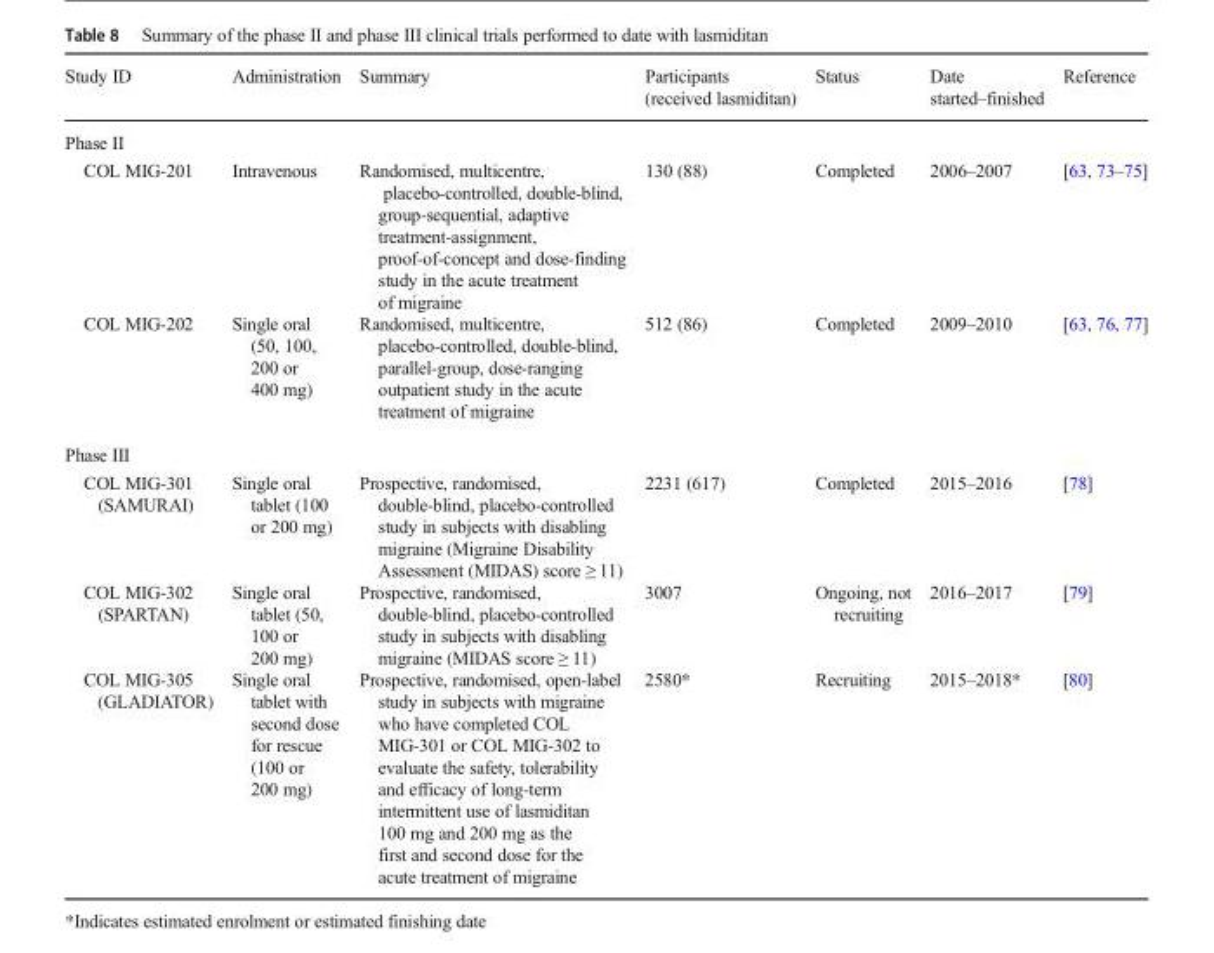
<table><thead><tr><td>Study ID</td><td>Administration</td><td>Summary</td><td>Participants (received lasmiditan)</td><td>Status</td><td>Date started–finished</td><td>Reference</td></tr></thead><tbody><tr><td colspan="7">Phase II</td></tr><tr><td>COL MIG-201</td><td>Intravenous</td><td>Randomised, multicentre, placebo-controlled, double-blind, group-sequential, adaptive treatment-assignment, proof-of-concept and dose-finding study in the acute treatment of migraine</td><td>130 (88)</td><td>Completed</td><td>2006–2007</td><td>[63, 73–75]</td></tr><tr><td>COL MIG-202</td><td>Single oral (50, 100, 200 or 400 mg)</td><td>Randomised, multicentre, placebo-controlled, double-blind, parallel-group, dose-ranging outpatient study in the acute treatment of migraine</td><td>512 (86)</td><td>Completed</td><td>2009–2010</td><td>[63, 76, 77]</td></tr><tr><td colspan="7">Phase III</td></tr><tr><td>COL MIG-301 (SAMURAI)</td><td>Single oral tablet (100 or 200 mg)</td><td>Prospective, randomised, double-blind, placebo-controlled study in subjects with disabling migraine (Migraine Disability Assessment (MIDAS) score ≥ 11)</td><td>2231 (617)</td><td>Completed</td><td>2015–2016</td><td>[78]</td></tr><tr><td>COL MIG-302 (SPARTAN)</td><td>Single oral tablet (50, 100 or 200 mg)</td><td>Prospective, randomised, double-blind, placebo-controlled study in subjects with disabling migraine (MIDAS score ≥ 11)</td><td>3007</td><td>Ongoing, not recruiting</td><td>2016–2017</td><td>[79]</td></tr><tr><td>COL MIG-305 (GLADIATOR)</td><td>Single oral tablet with second dose for rescue (100 or 200 mg)</td><td>Prospective, randomised, open-label study in subjects with migraine who have completed COL MIG-301 or COL MIG-302 to evaluate the safety, tolerability and efficacy of long-term intermittent use of lasmiditan 100 mg and 200 mg as the first and second dose for the acute treatment of migraine</td><td>2580*</td><td>Recruiting</td><td>2015–2018*</td><td>[80]</td></tr></tbody></table>